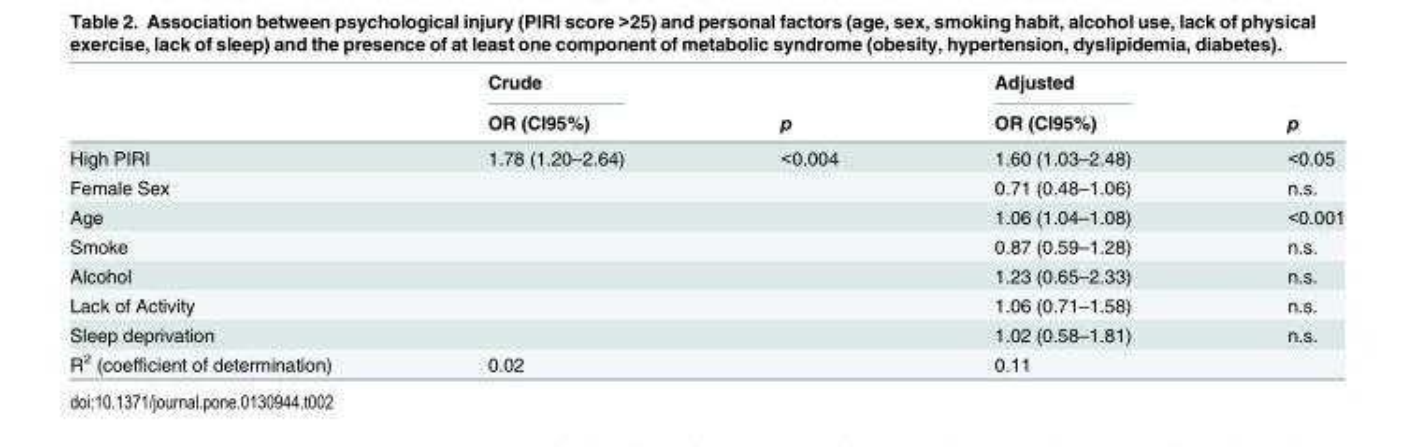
<table><thead><tr><td rowspan="2"></td><td rowspan="2">Crude OR (CI95%)</td><td rowspan="2">p</td><td rowspan="2">Adjusted OR (CI95%)</td><td rowspan="2">p</td></tr><tr></tr></thead><tbody><tr><td>High PIRI</td><td>1.78 (1.20–2.64)</td><td>&lt;0.004</td><td>1.60 (1.03–2.48)</td><td>&lt;0.05</td></tr><tr><td>Female Sex</td><td></td><td></td><td>0.71 (0.48–1.06)</td><td>n.s.</td></tr><tr><td>Age</td><td></td><td></td><td>1.06 (1.04–1.08)</td><td>&lt;0.001</td></tr><tr><td>Smoke</td><td></td><td></td><td>0.87 (0.59–1.28)</td><td>n.s.</td></tr><tr><td>Alcohol</td><td></td><td></td><td>1.23 (0.65–2.33)</td><td>n.s.</td></tr><tr><td>Lack of Activity</td><td></td><td></td><td>1.06 (0.71–1.58)</td><td>n.s.</td></tr><tr><td>Sleep deprivation</td><td></td><td></td><td>1.02 (0.58–1.81)</td><td>n.s.</td></tr><tr><td>R<sup>2</sup> (coefficient of determination)</td><td>0.02</td><td></td><td>0.11</td><td></td></tr></tbody></table>